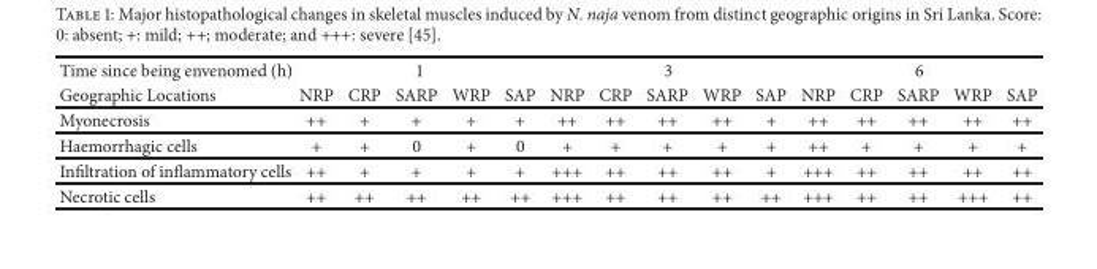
<table><thead><tr><td rowspan="2">Time since being envenomed (h) Geographic Locations</td><td colspan="5">1</td><td colspan="5">3</td><td colspan="5">6</td></tr><tr><td>NRP</td><td>CRP</td><td>SARP</td><td>WRP</td><td>SAP</td><td>NRP</td><td>CRP</td><td>SARP</td><td>WRP</td><td>SAP</td><td>NRP</td><td>CRP</td><td>SARP</td><td>WRP</td><td>SAP</td></tr></thead><tbody><tr><td>Myonecrosis</td><td>++</td><td>+</td><td>+</td><td>+</td><td>+</td><td>++</td><td>++</td><td>++</td><td>++</td><td>+</td><td>++</td><td>++</td><td>++</td><td>++</td><td>++</td></tr><tr><td>Haemorrhagic cells</td><td>+</td><td>+</td><td>0</td><td>+</td><td>0</td><td>+</td><td>+</td><td>+</td><td>+</td><td>+</td><td>++</td><td>+</td><td>+</td><td>+</td><td>+</td></tr><tr><td>Infiltration of inflammatory cells</td><td>++</td><td>+</td><td>+</td><td>+</td><td>+</td><td>+++</td><td>++</td><td>++</td><td>++</td><td>+</td><td>+++</td><td>++</td><td>++</td><td>++</td><td>++</td></tr><tr><td>Necrotic cells</td><td>++</td><td>++</td><td>++</td><td>++</td><td>++</td><td>+++</td><td>++</td><td>++</td><td>++</td><td>++</td><td>+++</td><td>++</td><td>++</td><td>+++</td><td>++</td></tr></tbody></table>